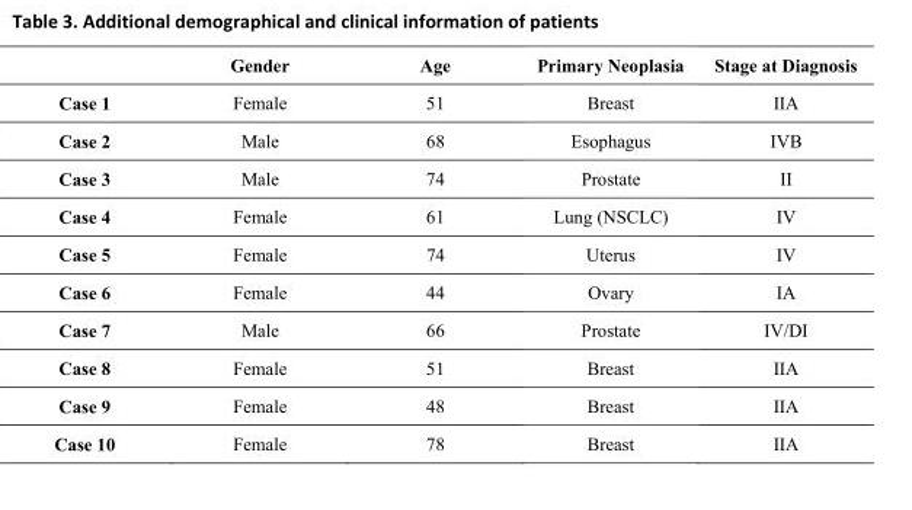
<table><thead><tr><td></td><td>Gender</td><td>Age</td><td>Primary Neoplasia</td><td>Stage at Diagnosis</td></tr></thead><tbody><tr><td>Case 1</td><td>Female</td><td>51</td><td>Breast</td><td>IIA</td></tr><tr><td>Case 2</td><td>Male</td><td>68</td><td>Esophagus</td><td>IVB</td></tr><tr><td>Case 3</td><td>Male</td><td>74</td><td>Prostate</td><td>II</td></tr><tr><td>Case 4</td><td>Female</td><td>61</td><td>Lung (NSCLC)</td><td>IV</td></tr><tr><td>Case 5</td><td>Female</td><td>74</td><td>Uterus</td><td>IV</td></tr><tr><td>Case 6</td><td>Female</td><td>44</td><td>Ovary</td><td>IA</td></tr><tr><td>Case 7</td><td>Male</td><td>66</td><td>Prostate</td><td>IV/DI</td></tr><tr><td>Case 8</td><td>Female</td><td>51</td><td>Breast</td><td>IIA</td></tr><tr><td>Case 9</td><td>Female</td><td>48</td><td>Breast</td><td>IIA</td></tr><tr><td>Case 10</td><td>Female</td><td>78</td><td>Breast</td><td>IIA</td></tr></tbody></table>